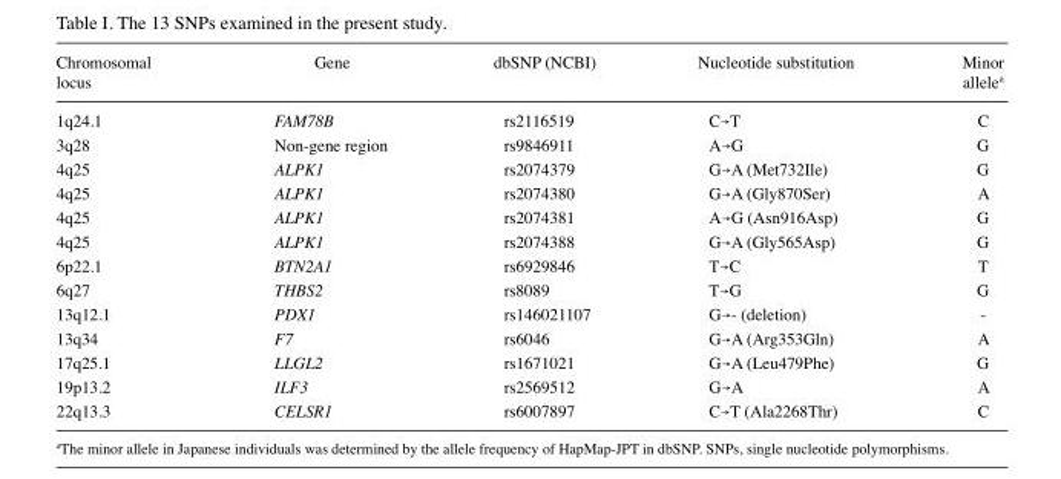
<table><thead><tr><td>Chromosomal locus</td><td>Gene</td><td>dbSNP (NCBI)</td><td>Nucleotide substitution</td><td>Minor allele<sup>a</sup></td></tr></thead><tbody><tr><td>1q24.1</td><td>FAM78B</td><td>rs2116519</td><td>C→T</td><td>C</td></tr><tr><td>3q28</td><td>Non-gene region</td><td>rs9846911</td><td>A→G</td><td>G</td></tr><tr><td>4q25</td><td>ALPK1</td><td>rs2074379</td><td>G→A (Met732Ile)</td><td>G</td></tr><tr><td>4q25</td><td>ALPK1</td><td>rs2074380</td><td>G→A (Gly870Ser)</td><td>A</td></tr><tr><td>4q25</td><td>ALPK1</td><td>rs2074381</td><td>A→G (Asn916Asp)</td><td>G</td></tr><tr><td>4q25</td><td>ALPK1</td><td>rs2074388</td><td>G→A (Gly565Asp)</td><td>G</td></tr><tr><td>6p22.1</td><td>BTN2A1</td><td>rs6929846</td><td>T→C</td><td>T</td></tr><tr><td>6q27</td><td>THBS2</td><td>rs8089</td><td>T→G</td><td>G</td></tr><tr><td>13q12.1</td><td>PDX1</td><td>rs146021107</td><td>G→- (deletion)</td><td>-</td></tr><tr><td>13q34</td><td>F7</td><td>rs6046</td><td>G→A (Arg353Gln)</td><td>A</td></tr><tr><td>17q25.1</td><td>LLGL2</td><td>rs1671021</td><td>G→A (Leu479Phe)</td><td>G</td></tr><tr><td>19p13.2</td><td>ILF3</td><td>rs2569512</td><td>G→A</td><td>A</td></tr><tr><td>22q13.3</td><td>CELSR1</td><td>rs6007897</td><td>C→T (Ala2268Thr)</td><td>C</td></tr></tbody></table>